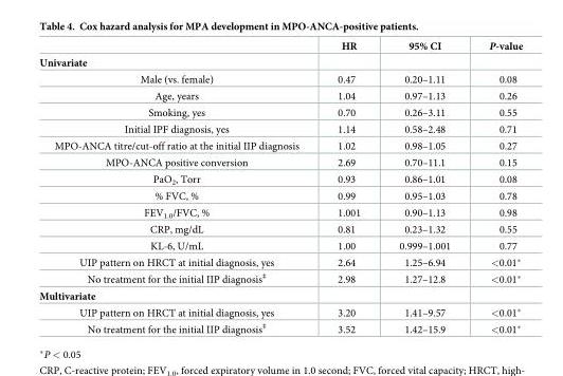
<table><thead><tr><td></td><td>HR</td><td>95% CI</td><td>P-value</td></tr></thead><tbody><tr><td colspan="4">Univariate</td></tr><tr><td>Male (vs. female)</td><td>0.47</td><td>0.20–1.11</td><td>0.08</td></tr><tr><td>Age, years</td><td>1.04</td><td>0.97–1.13</td><td>0.26</td></tr><tr><td>Smoking, yes</td><td>0.70</td><td>0.26–3.11</td><td>0.55</td></tr><tr><td>Initial IPF diagnosis, yes</td><td>1.14</td><td>0.58–2.48</td><td>0.71</td></tr><tr><td>MPO-ANCA titre/cut-off ratio at the initial IIP diagnosis</td><td>1.02</td><td>0.98–1.05</td><td>0.27</td></tr><tr><td>MPO-ANCA positive conversion</td><td>2.69</td><td>0.70–11.1</td><td>0.15</td></tr><tr><td>PaO<sub>2</sub>, Torr</td><td>0.93</td><td>0.86–1.01</td><td>0.08</td></tr><tr><td>% FVC, %</td><td>0.99</td><td>0.95–1.03</td><td>0.78</td></tr><tr><td>FEV<sub>1.0</sub>/FVC, %</td><td>1.001</td><td>0.90–1.13</td><td>0.98</td></tr><tr><td>CRP, mg/dL</td><td>0.81</td><td>0.23–1.32</td><td>0.55</td></tr><tr><td>KL-6, U/mL</td><td>1.00</td><td>0.999–1.001</td><td>0.77</td></tr><tr><td>UIP pattern on HRCT at initial diagnosis, yes</td><td>2.64</td><td>1.25–6.94</td><td>&lt;0.01*</td></tr><tr><td>No treatment for the initial IIP diagnosis<sup>‡</sup></td><td>2.98</td><td>1.27–12.8</td><td>&lt;0.01*</td></tr><tr><td colspan="4">Multivariate</td></tr><tr><td>UIP pattern on HRCT at initial diagnosis, yes</td><td>3.20</td><td>1.41–9.57</td><td>&lt;0.01*</td></tr><tr><td>No treatment for the initial IIP diagnosis<sup>‡</sup></td><td>3.52</td><td>1.42–15.9</td><td>&lt;0.01*</td></tr></tbody></table>